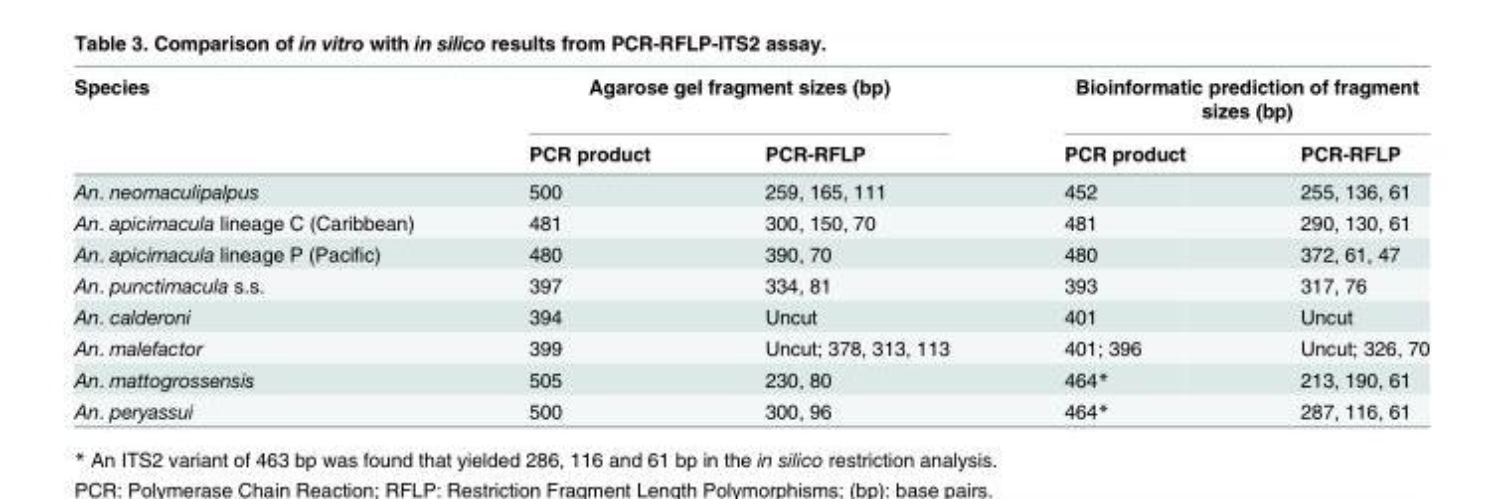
<table><thead><tr><td rowspan="2">Species</td><td colspan="2">Agarose gel fragment sizes (bp)</td><td colspan="2">Bioinformatic prediction of fragment sizes (bp)</td></tr><tr><td>PCR product</td><td>PCR-RFLP</td><td>PCR product</td><td>PCR-RFLP</td></tr></thead><tbody><tr><td>An. neomaculipalpus</td><td>500</td><td>259, 165, 111</td><td>452</td><td>255, 136, 61</td></tr><tr><td>An. apicimacula lineage C (Caribbean)</td><td>481</td><td>300, 150, 70</td><td>481</td><td>290, 130, 61</td></tr><tr><td>An. apicimacula lineage P (Pacific)</td><td>480</td><td>390, 70</td><td>480</td><td>372, 61, 47</td></tr><tr><td>An. punctimacula s.s.</td><td>397</td><td>334, 81</td><td>393</td><td>317, 76</td></tr><tr><td>An. calderoni</td><td>394</td><td>Uncut</td><td>401</td><td>Uncut</td></tr><tr><td>An. malefactor</td><td>399</td><td>Uncut; 378, 313, 113</td><td>401; 396</td><td>Uncut; 326, 70</td></tr><tr><td>An. mattogrossensis</td><td>505</td><td>230, 80</td><td>464*</td><td>213, 190, 61</td></tr><tr><td>An. peryassui</td><td>500</td><td>300, 96</td><td>464*</td><td>287, 116, 61</td></tr></tbody></table>